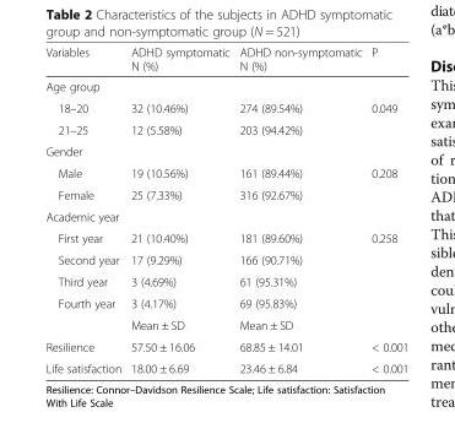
<table><thead><tr><td>Variables</td><td>ADHD symptomatic N (%)</td><td>ADHD non-symptomatic N (%)</td><td>P</td></tr></thead><tbody><tr><td colspan="4">Age group</td></tr><tr><td>18–20</td><td>32 (10.46%)</td><td>274 (89.54%)</td><td rowspan="2">0.049</td></tr><tr><td>21–25</td><td>12 (5.58%)</td><td>203 (94.42%)</td></tr><tr><td colspan="4">Gender</td></tr><tr><td>Male</td><td>19 (10.56%)</td><td>161 (89.44%)</td><td rowspan="2">0.208</td></tr><tr><td>Female</td><td>25 (7.33%)</td><td>316 (92.67%)</td></tr><tr><td colspan="4">Academic year</td></tr><tr><td>First year</td><td>21 (10.40%)</td><td>181 (89.60%)</td><td rowspan="4">0.258</td></tr><tr><td>Second year</td><td>17 (9.29%)</td><td>166 (90.71%)</td></tr><tr><td>Third year</td><td>3 (4.69%)</td><td>61 (95.31%)</td></tr><tr><td rowspan="2">Fourth year</td><td>3 (4.17%)</td><td>69 (95.83%)</td></tr><tr><td>Mean ± SD</td><td>Mean ± SD</td><td></td></tr><tr><td>Resilience</td><td>57.50 ± 16.06</td><td>68.85 ± 14.01</td><td>&lt; 0.001</td></tr><tr><td>Life satisfaction</td><td>18.00 ± 6.69</td><td>23.46 ± 6.84</td><td>&lt; 0.001</td></tr></tbody></table>